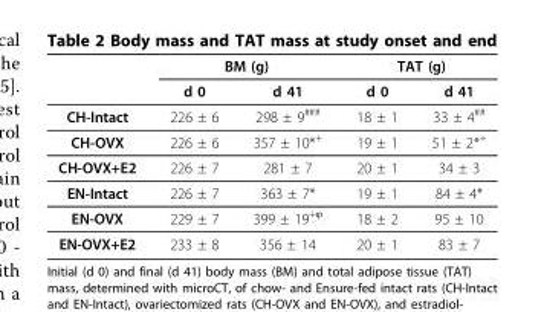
<table><thead><tr><td rowspan="2"></td><td colspan="2">BM (g)</td><td colspan="2">TAT (g)</td></tr><tr><td>d 0</td><td>d 41</td><td>d 0</td><td>d 41</td></tr></thead><tbody><tr><td>CH-Intact</td><td>226 ± 6</td><td>298 ± 9<sup>###</sup></td><td>18 ± 1</td><td>33 ± 4<sup>##</sup></td></tr><tr><td>CH-OVX</td><td>226 ± 6</td><td>357 ± 10*<sup>+</sup></td><td>19 ± 1</td><td>51 ± 2*<sup>+</sup></td></tr><tr><td>CH-OVX+E2</td><td>226 ± 7</td><td>281 ± 7</td><td>20 ± 1</td><td>34 ± 3</td></tr><tr><td>EN-Intact</td><td>226 ± 7</td><td>363 ± 7*</td><td>19 ± 1</td><td>84 ± 4*</td></tr><tr><td>EN-OVX</td><td>229 ± 7</td><td>399 ± 19<sup>+ϕ</sup></td><td>18 ± 2</td><td>95 ± 10</td></tr><tr><td>EN-OVX+E2</td><td>233 ± 8</td><td>356 ± 14</td><td>20 ± 1</td><td>83 ± 7</td></tr></tbody></table>